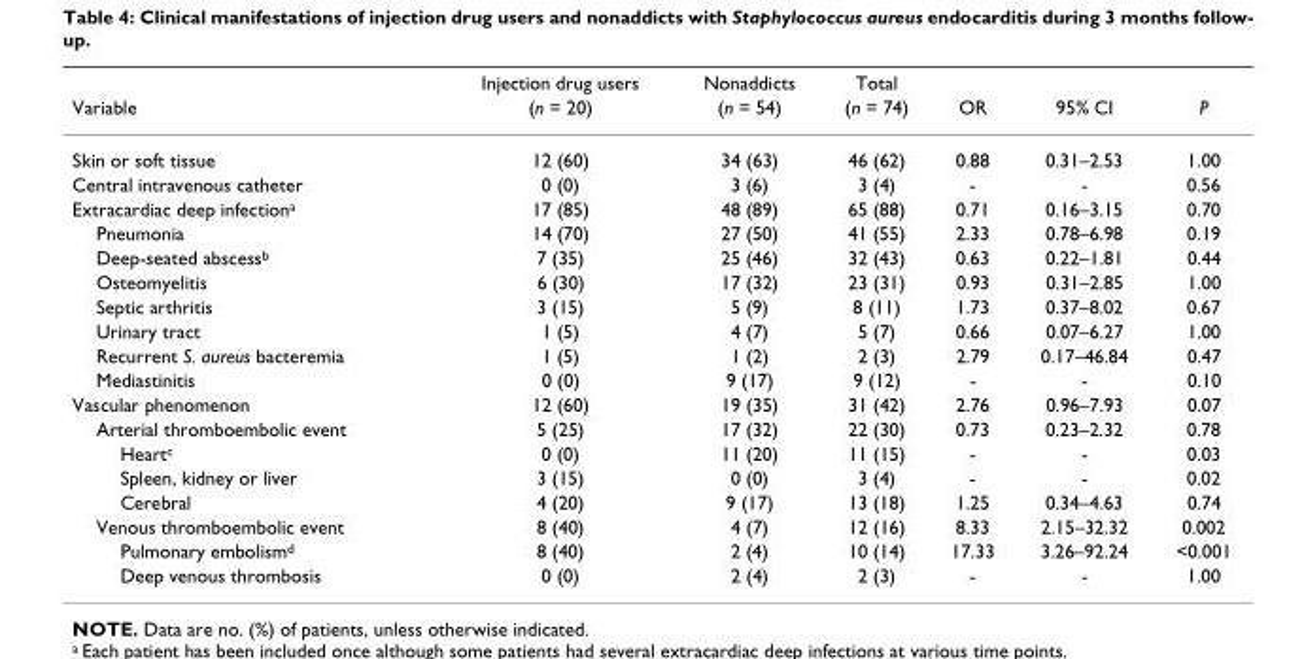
<table><thead><tr><td rowspan="2">Variable</td><td rowspan="2">Injection drug users (n = 20)</td><td rowspan="2">Nonaddicts (n = 54)</td><td rowspan="2">Total (n = 74)</td><td rowspan="2">OR</td><td rowspan="2">95% CI</td><td rowspan="2">P</td></tr><tr></tr></thead><tbody><tr><td>Skin or soft tissue</td><td>12 (60)</td><td>34 (63)</td><td>46 (62)</td><td>0.88</td><td>0.31–2.53</td><td>1.00</td></tr><tr><td>Central intravenous catheter</td><td>0 (0)</td><td>3 (6)</td><td>3 (4)</td><td>-</td><td>-</td><td>0.56</td></tr><tr><td>Extracardiac deep infection<sup>a</sup></td><td>17 (85)</td><td>48 (89)</td><td>65 (88)</td><td>0.71</td><td>0.16–3.15</td><td>0.70</td></tr><tr><td>Pneumonia</td><td>14 (70)</td><td>27 (50)</td><td>41 (55)</td><td>2.33</td><td>0.78–6.98</td><td>0.19</td></tr><tr><td>Deep-seated abscess<sup>b</sup></td><td>7 (35)</td><td>25 (46)</td><td>32 (43)</td><td>0.63</td><td>0.22–1.81</td><td>0.44</td></tr><tr><td>Osteomyelitis</td><td>6 (30)</td><td>17 (32)</td><td>23 (31)</td><td>0.93</td><td>0.31–2.85</td><td>1.00</td></tr><tr><td>Septic arthritis</td><td>3 (15)</td><td>5 (9)</td><td>8 (11)</td><td>1.73</td><td>0.37–8.02</td><td>0.67</td></tr><tr><td>Urinary tract</td><td>1 (5)</td><td>4 (7)</td><td>5 (7)</td><td>0.66</td><td>0.07–6.27</td><td>1.00</td></tr><tr><td>Recurrent S. aureus bacteremia</td><td>1 (5)</td><td>1 (2)</td><td>2 (3)</td><td>2.79</td><td>0.17–46.84</td><td>0.47</td></tr><tr><td>Mediastinitis</td><td>0 (0)</td><td>9 (17)</td><td>9 (12)</td><td>-</td><td>-</td><td>0.10</td></tr><tr><td>Vascular phenomenon</td><td>12 (60)</td><td>19 (35)</td><td>31 (42)</td><td>2.76</td><td>0.96–7.93</td><td>0.07</td></tr><tr><td>Arterial thromboembolic event</td><td>5 (25)</td><td>17 (32)</td><td>22 (30)</td><td>0.73</td><td>0.23–2.32</td><td>0.78</td></tr><tr><td>Heart<sup>c</sup></td><td>0 (0)</td><td>11 (20)</td><td>11 (15)</td><td>-</td><td>-</td><td>0.03</td></tr><tr><td>Spleen, kidney or liver</td><td>3 (15)</td><td>0 (0)</td><td>3 (4)</td><td>-</td><td>-</td><td>0.02</td></tr><tr><td>Cerebral</td><td>4 (20)</td><td>9 (17)</td><td>13 (18)</td><td>1.25</td><td>0.34–4.63</td><td>0.74</td></tr><tr><td>Venous thromboembolic event</td><td>8 (40)</td><td>4 (7)</td><td>12 (16)</td><td>8.33</td><td>2.15–32.32</td><td>0.002</td></tr><tr><td>Pulmonary embolism<sup>d</sup></td><td>8 (40)</td><td>2 (4)</td><td>10 (14)</td><td>17.33</td><td>3.26–92.24</td><td>&lt;0.001</td></tr><tr><td>Deep venous thrombosis</td><td>0 (0)</td><td>2 (4)</td><td>2 (3)</td><td>-</td><td>-</td><td>1.00</td></tr></tbody></table>